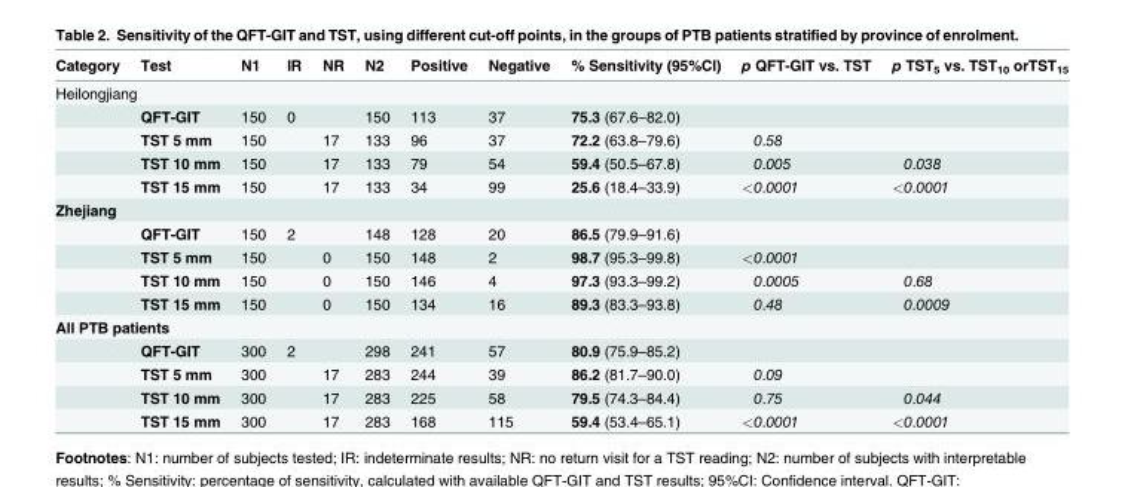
<table><thead><tr><td>Category</td><td>Test</td><td>N1</td><td>IR</td><td>NR</td><td>N2</td><td>Positive</td><td>Negative</td><td>% Sensitivity (95%CI)</td><td>p QFT-GIT vs. TST</td><td>p TST<sub>5</sub> vs. TST<sub>10</sub> orTST<sub>15</sub></td></tr></thead><tbody><tr><td colspan="11">Heilongjiang</td></tr><tr><td></td><td>QFT-GIT</td><td>150</td><td>0</td><td></td><td>150</td><td>113</td><td>37</td><td>75.3 (67.6–82.0)</td><td></td><td></td></tr><tr><td></td><td>TST 5 mm</td><td>150</td><td></td><td>17</td><td>133</td><td>96</td><td>37</td><td>72.2 (63.8–79.6)</td><td>0.58</td><td></td></tr><tr><td></td><td>TST 10 mm</td><td>150</td><td></td><td>17</td><td>133</td><td>79</td><td>54</td><td>59.4 (50.5–67.8)</td><td>0.005</td><td>0.038</td></tr><tr><td></td><td>TST 15 mm</td><td>150</td><td></td><td>17</td><td>133</td><td>34</td><td>99</td><td>25.6 (18.4–33.9)</td><td>&lt;0.0001</td><td>&lt;0.0001</td></tr><tr><td colspan="11">Zhejiang</td></tr><tr><td></td><td>QFT-GIT</td><td>150</td><td>2</td><td></td><td>148</td><td>128</td><td>20</td><td>86.5 (79.9–91.6)</td><td></td><td></td></tr><tr><td></td><td>TST 5 mm</td><td>150</td><td></td><td>0</td><td>150</td><td>148</td><td>2</td><td>98.7 (95.3–99.8)</td><td>&lt;0.0001</td><td></td></tr><tr><td></td><td>TST 10 mm</td><td>150</td><td></td><td>0</td><td>150</td><td>146</td><td>4</td><td>97.3 (93.3–99.2)</td><td>0.0005</td><td>0.68</td></tr><tr><td></td><td>TST 15 mm</td><td>150</td><td></td><td>0</td><td>150</td><td>134</td><td>16</td><td>89.3 (83.3–93.8)</td><td>0.48</td><td>0.0009</td></tr><tr><td colspan="11">All PTB patients</td></tr><tr><td></td><td>QFT-GIT</td><td>300</td><td>2</td><td></td><td>298</td><td>241</td><td>57</td><td>80.9 (75.9–85.2)</td><td></td><td></td></tr><tr><td></td><td>TST 5 mm</td><td>300</td><td></td><td>17</td><td>283</td><td>244</td><td>39</td><td>86.2 (81.7–90.0)</td><td>0.09</td><td></td></tr><tr><td></td><td>TST 10 mm</td><td>300</td><td></td><td>17</td><td>283</td><td>225</td><td>58</td><td>79.5 (74.3–84.4)</td><td>0.75</td><td>0.044</td></tr><tr><td></td><td>TST 15 mm</td><td>300</td><td></td><td>17</td><td>283</td><td>168</td><td>115</td><td>59.4 (53.4–65.1)</td><td>&lt;0.0001</td><td>&lt;0.0001</td></tr></tbody></table>